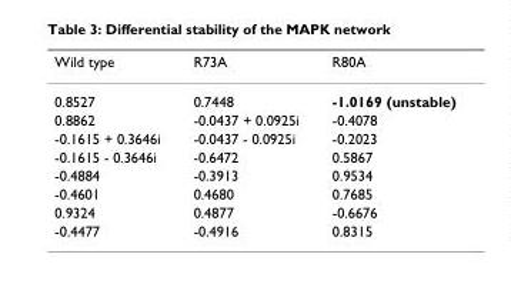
<table><thead><tr><td>Wild type</td><td>R73A</td><td>R80A</td></tr></thead><tbody><tr><td>0.8527</td><td>0.7448</td><td>-1.0169 (unstable)</td></tr><tr><td>0.8862</td><td>-0.0437 + 0.0925i</td><td>-0.4078</td></tr><tr><td>-0.1615 + 0.3646i</td><td>-0.0437 - 0.0925i</td><td>-0.2023</td></tr><tr><td>-0.1615 - 0.3646i</td><td>-0.6472</td><td>0.5867</td></tr><tr><td>-0.4884</td><td>-0.3913</td><td>0.9534</td></tr><tr><td>-0.4601</td><td>0.4680</td><td>0.7685</td></tr><tr><td>0.9324</td><td>0.4877</td><td>-0.6676</td></tr><tr><td>-0.4477</td><td>-0.4916</td><td>0.8315</td></tr></tbody></table>